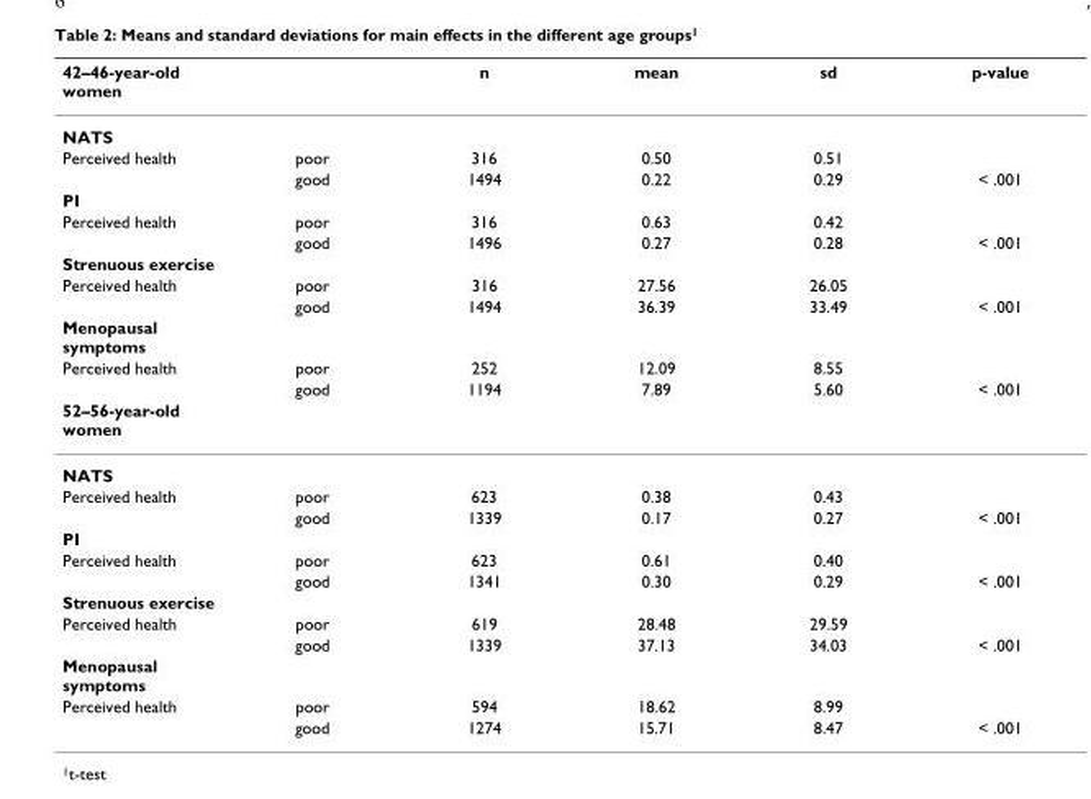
<table><thead><tr><td>42–46-year-old women</td><td></td><td>n</td><td>mean</td><td>sd</td><td>p-value</td></tr></thead><tbody><tr><td colspan="6">NATS</td></tr><tr><td rowspan="2">Perceived health</td><td>poor</td><td>316</td><td>0.50</td><td>0.51</td><td></td></tr><tr><td>good</td><td>1494</td><td>0.22</td><td>0.29</td><td>&lt; .001</td></tr><tr><td colspan="6">PI</td></tr><tr><td rowspan="2">Perceived health</td><td>poor</td><td>316</td><td>0.63</td><td>0.42</td><td></td></tr><tr><td>good</td><td>1496</td><td>0.27</td><td>0.28</td><td>&lt; .001</td></tr><tr><td colspan="6">Strenuous exercise</td></tr><tr><td rowspan="2">Perceived health</td><td>poor</td><td>316</td><td>27.56</td><td>26.05</td><td></td></tr><tr><td>good</td><td>1494</td><td>36.39</td><td>33.49</td><td>&lt; .001</td></tr><tr><td colspan="6">Menopausal symptoms</td></tr><tr><td rowspan="2">Perceived health</td><td>poor</td><td>252</td><td>12.09</td><td>8.55</td><td></td></tr><tr><td>good</td><td>1194</td><td>7.89</td><td>5.60</td><td>&lt; .001</td></tr><tr><td colspan="6">52–56-year-old women</td></tr><tr><td colspan="6">NATS</td></tr><tr><td rowspan="2">Perceived health</td><td>poor</td><td>623</td><td>0.38</td><td>0.43</td><td></td></tr><tr><td>good</td><td>1339</td><td>0.17</td><td>0.27</td><td>&lt; .001</td></tr><tr><td colspan="6">PI</td></tr><tr><td rowspan="2">Perceived health</td><td>poor</td><td>623</td><td>0.61</td><td>0.40</td><td></td></tr><tr><td>good</td><td>1341</td><td>0.30</td><td>0.29</td><td>&lt; .001</td></tr><tr><td colspan="6">Strenuous exercise</td></tr><tr><td rowspan="2">Perceived health</td><td>poor</td><td>619</td><td>28.48</td><td>29.59</td><td></td></tr><tr><td>good</td><td>1339</td><td>37.13</td><td>34.03</td><td>&lt; .001</td></tr><tr><td colspan="6">Menopausal symptoms</td></tr><tr><td rowspan="2">Perceived health</td><td>poor</td><td>594</td><td>18.62</td><td>8.99</td><td></td></tr><tr><td>good</td><td>1274</td><td>15.71</td><td>8.47</td><td>&lt; .001</td></tr></tbody></table>